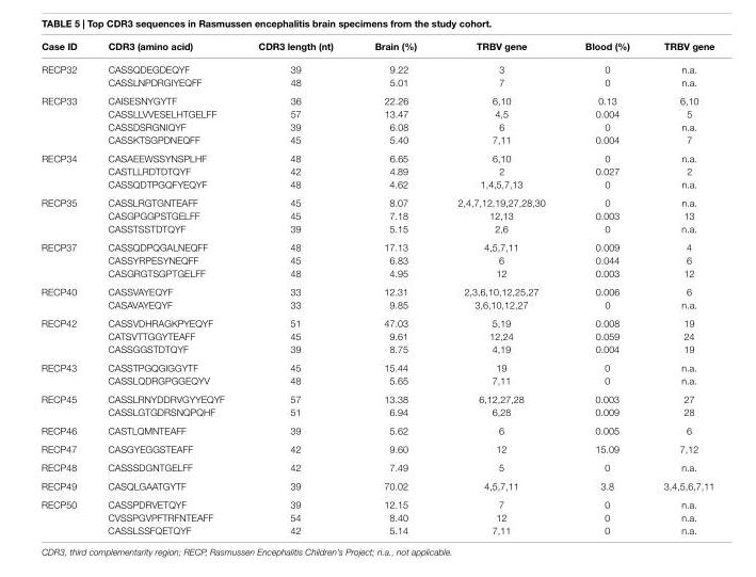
<table><thead><tr><td>case iD</td><td>cDr3 (amino acid)</td><td>cDr3 length (nt)</td><td>Brain (%)</td><td>TrBV gene</td><td>Blood (%)</td><td>TrBV gene</td></tr></thead><tbody><tr><td rowspan="2">RECP32</td><td>CASSQDEGDEQYF</td><td>39</td><td>9.22</td><td>3</td><td>0</td><td>n.a.</td></tr><tr><td>CASSLNPDRGIYEQFF</td><td>48</td><td>5.01</td><td>7</td><td>0</td><td>n.a.</td></tr><tr><td rowspan="4">RECP33</td><td>CAISESNYGYTF</td><td>36</td><td>22.26</td><td>6,10</td><td>0.13</td><td>6,10</td></tr><tr><td>CASSLLVVESELHTGELFF</td><td>57</td><td>13.47</td><td>4,5</td><td>0.004</td><td>5</td></tr><tr><td>CASSDSRGNIQYF</td><td>39</td><td>6.08</td><td>6</td><td>0</td><td>n.a.</td></tr><tr><td>CASSKTSGPDNEQFF</td><td>45</td><td>5.40</td><td>7,11</td><td>0.004</td><td>7</td></tr><tr><td rowspan="3">RECP34</td><td>CASAEEWSSYNSPLHF</td><td>48</td><td>6.65</td><td>6,10</td><td>0</td><td>n.a.</td></tr><tr><td>CASTLLRDTDTQYF</td><td>42</td><td>4.89</td><td>2</td><td>0.027</td><td>2</td></tr><tr><td>CASSQDTPGQFYEQYF</td><td>48</td><td>4.62</td><td>1,4,5,7,13</td><td>0</td><td>n.a.</td></tr><tr><td rowspan="3">RECP35</td><td>CASSLRGTGNTEAFF</td><td>45</td><td>8.07</td><td>2,4,7,12,19,27,28,30</td><td>0</td><td>n.a.</td></tr><tr><td>CASGPGGPSTGELFF</td><td>45</td><td>7.18</td><td>12,13</td><td>0.003</td><td>13</td></tr><tr><td>CASSTSSTDTQYF</td><td>39</td><td>5.15</td><td>2,6</td><td>0</td><td>n.a.</td></tr><tr><td rowspan="3">RECP37</td><td>CASSQDPQGALNEQFF</td><td>48</td><td>17.13</td><td>4,5,7,11</td><td>0.009</td><td>4</td></tr><tr><td>CASSYRPESYNEQFF</td><td>45</td><td>6.83</td><td>6</td><td>0.044</td><td>6</td></tr><tr><td>CASGRGTSGPTGELFF</td><td>48</td><td>4.95</td><td>12</td><td>0.003</td><td>12</td></tr><tr><td rowspan="2">RECP40</td><td>CASSVAYEQYF</td><td>33</td><td>12.31</td><td>2,3,6,10,12,25,27</td><td>0.006</td><td>6</td></tr><tr><td>CASAVAYEQYF</td><td>33</td><td>9.85</td><td>3,6,10,12,27</td><td>0</td><td>n.a.</td></tr><tr><td rowspan="3">RECP42</td><td>CASSVDHRAGKPYEQYF</td><td>51</td><td>47.03</td><td>5,19</td><td>0.008</td><td>19</td></tr><tr><td>CATSVTTGGYTEAFF</td><td>45</td><td>9.61</td><td>12,24</td><td>0.059</td><td>24</td></tr><tr><td>CASSGGSTDTQYF</td><td>39</td><td>8.75</td><td>4,19</td><td>0.004</td><td>19</td></tr><tr><td rowspan="2">RECP43</td><td>CASSTPGQGIGGYTF</td><td>45</td><td>15.44</td><td>19</td><td>0</td><td>n.a.</td></tr><tr><td>CASSLQDRGPGGEQYV</td><td>48</td><td>5.65</td><td>7,11</td><td>0</td><td>n.a.</td></tr><tr><td rowspan="2">RECP45</td><td>CASSLRNYDDRVGYYEQYF</td><td>57</td><td>13.38</td><td>6,12,27,28</td><td>0.003</td><td>27</td></tr><tr><td>CASSLGTGDRSNQPQHF</td><td>51</td><td>6.94</td><td>6,28</td><td>0.009</td><td>28</td></tr><tr><td>RECP46</td><td>CASTLQMNTEAFF</td><td>39</td><td>5.62</td><td>6</td><td>0.005</td><td>6</td></tr><tr><td>RECP47</td><td>CASGYEGGSTEAFF</td><td>42</td><td>9.60</td><td>12</td><td>15.09</td><td>7,12</td></tr><tr><td>RECP48</td><td>CASSSDGNTGELFF</td><td>42</td><td>7.49</td><td>5</td><td>0</td><td>n.a.</td></tr><tr><td>RECP49</td><td>CASQLGAATGYTF</td><td>39</td><td>70.02</td><td>4,5,7,11</td><td>3.8</td><td>3,4,5,6,7,11</td></tr><tr><td rowspan="3">RECP50</td><td>CASSPDRVETQYF</td><td>39</td><td>12.15</td><td>7</td><td>0</td><td>n.a.</td></tr><tr><td>CVSSPGVPFTRFNTEAFF</td><td>54</td><td>8.40</td><td>12</td><td>0</td><td>n.a.</td></tr><tr><td>CASSLSSFQETQYF</td><td>42</td><td>5.14</td><td>7,11</td><td>0</td><td>n.a.</td></tr></tbody></table>